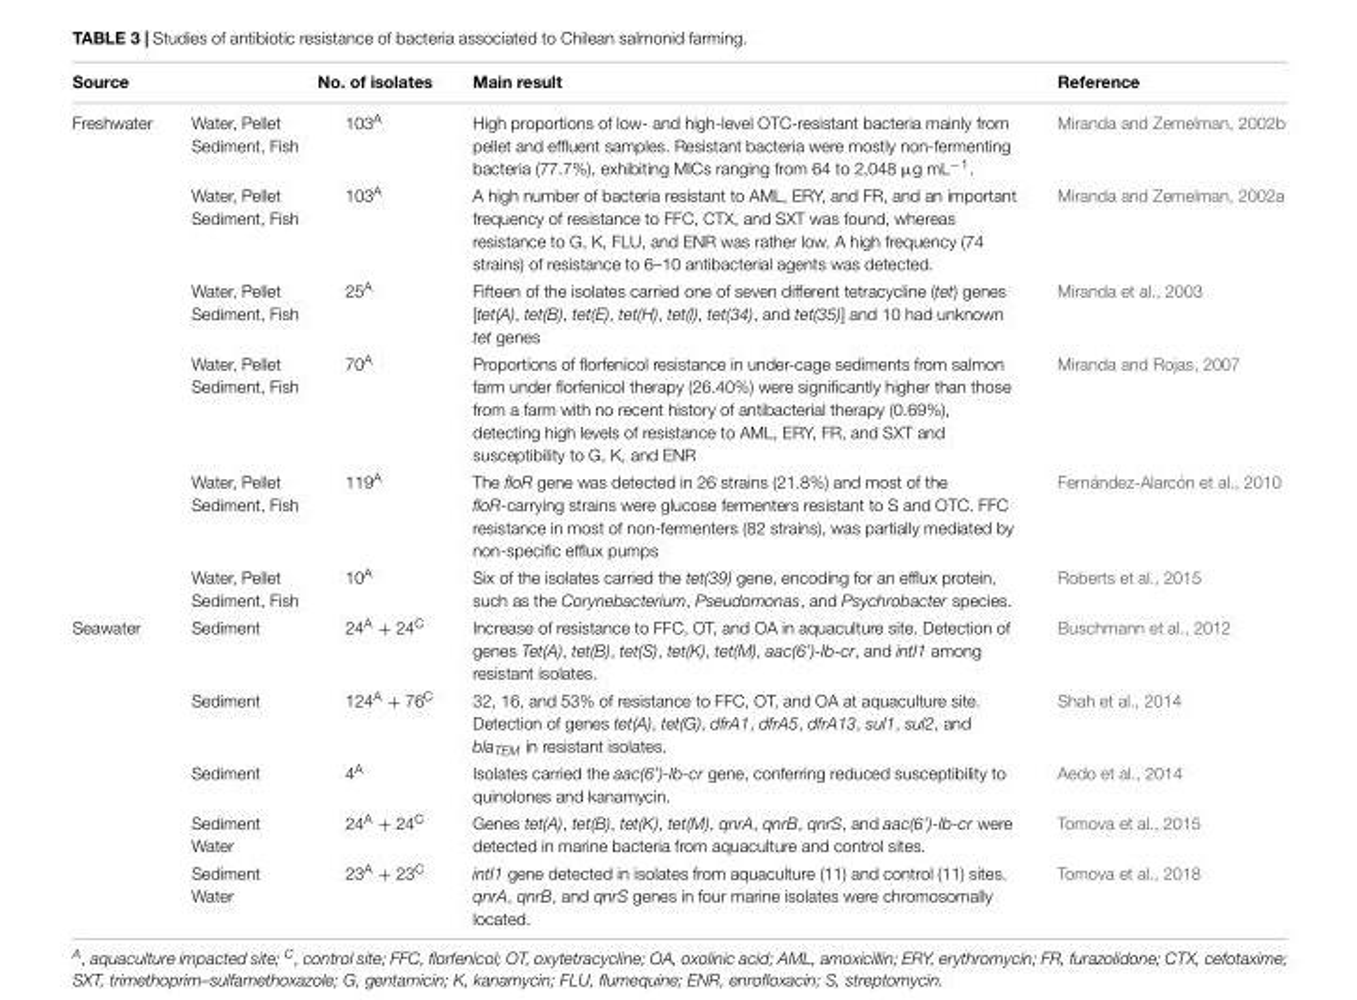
<table><thead><tr><td>Source</td><td></td><td>No. of isolates</td><td>Main result</td><td>Reference</td></tr></thead><tbody><tr><td rowspan="6">Freshwater</td><td>Water, Pellet Sediment, Fish</td><td>103<sup>A</sup></td><td>High proportions of low- and high-level OTC-resistant bacteria mainly from pellet and effluent samples. Resistant bacteria were mostly non-fermenting bacteria (77.7%), exhibiting MICs ranging from 64 to 2,048 µg mL<sup>−1</sup>.</td><td>Miranda and Zemelman, 2002b</td></tr><tr><td>Water, Pellet Sediment, Fish</td><td>103<sup>A</sup></td><td>A high number of bacteria resistant to AML, ERY, and FR, and an important frequency of resistance to FFC, CTX, and SXT was found, whereas resistance to G, K, FLU, and ENR was rather low. A high frequency (74 strains) of resistance to 6–10 antibacterial agents was detected.</td><td>Miranda and Zemelman, 2002a</td></tr><tr><td>Water, Pellet Sediment, Fish</td><td>25<sup>A</sup></td><td>Fifteen of the isolates carried one of seven different tetracycline (tet) genes [tet(A), tet(B), tet(E), tet(H), tet(l), tet(34), and tet(35)] and 10 had unknown tet genes</td><td>Miranda et al., 2003</td></tr><tr><td>Water, Pellet Sediment, Fish</td><td>70<sup>A</sup></td><td>Proportions of florfenicol resistance in under-cage sediments from salmon farm under florfenicol therapy (26.40%) were significantly higher than those from a farm with no recent history of antibacterial therapy (0.69%), detecting high levels of resistance to AML, ERY, FR, and SXT and susceptibility to G, K, and ENR</td><td>Miranda and Rojas, 2007</td></tr><tr><td>Water, Pellet Sediment, Fish</td><td>119<sup>A</sup></td><td>The floR gene was detected in 26 strains (21.8%) and most of the floR-carrying strains were glucose fermenters resistant to S and OTC. FFC resistance in most of non-fermenters (82 strains), was partially mediated by non-specific efflux pumps</td><td>Fernández-Alarcón et al., 2010</td></tr><tr><td>Water, Pellet Sediment, Fish</td><td>10<sup>A</sup></td><td>Six of the isolates carried the tet(39) gene, encoding for an efflux protein, such as the Corynebacterium, Pseudomonas, and Psychrobacter species.</td><td>Roberts et al., 2015</td></tr><tr><td rowspan="5">Seawater</td><td>Sediment</td><td>24<sup>A</sup> + 24<sup>C</sup></td><td>Increase of resistance to FFC, OT, and OA in aquaculture site. Detection of genes Tet(A), tet(B), tet(S), tet(K), tet(M), aac(6’)-Ib-cr, and intI1 among resistant isolates.</td><td>Buschmann et al., 2012</td></tr><tr><td>Sediment</td><td>124<sup>A</sup> + 76<sup>C</sup></td><td>32, 16, and 53% of resistance to FFC, OT, and OA at aquaculture site. Detection of genes tet(A), tet(G), dfrA1, dfrA5, dfrA13, sul1, sul2, and bla<sub>TEM</sub> in resistant isolates.</td><td>Shah et al., 2014</td></tr><tr><td>Sediment</td><td>4<sup>A</sup></td><td>Isolates carried the aac(6’)-Ib-cr gene, conferring reduced susceptibility to quinolones and kanamycin.</td><td>Aedo et al., 2014</td></tr><tr><td>Sediment Water</td><td>24<sup>A</sup> + 24<sup>C</sup></td><td>Genes tet(A), tet(B), tet(K), tet(M), qnrA, qnrB, qnrS, and aac(6’)-Ib-cr were detected in marine bacteria from aquaculture and control sites.</td><td>Tomova et al., 2015</td></tr><tr><td>Sediment Water</td><td>23<sup>A</sup> + 23<sup>C</sup></td><td>intI1 gene detected in isolates from aquaculture (11) and control (11) sites. qnrA, qnrB, and qnrS genes in four marine isolates were chromosomally located.</td><td>Tomova et al., 2018</td></tr></tbody></table>